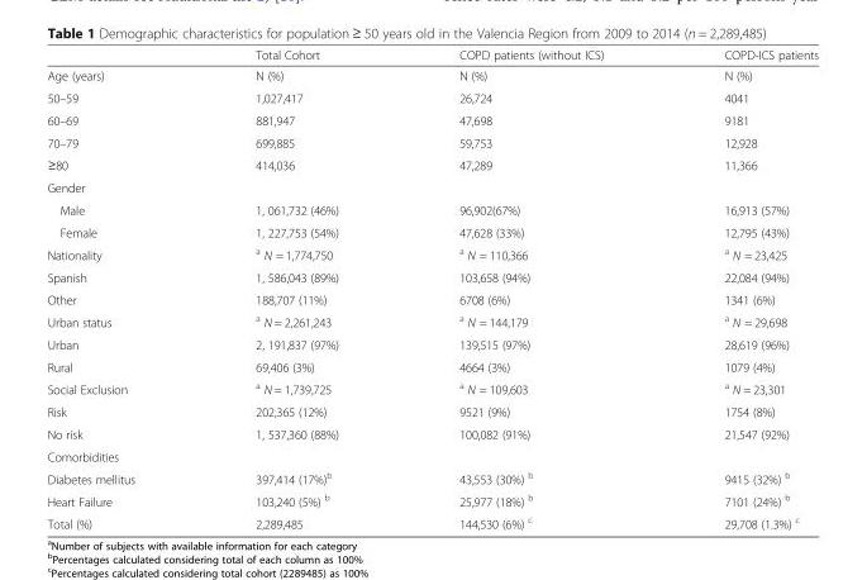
<table><thead><tr><td></td><td>Total Cohort</td><td>COPD patients (without ICS)</td><td>COPD-ICS patients</td></tr></thead><tbody><tr><td>Age (years)</td><td>N (%)</td><td>N (%)</td><td>N (%)</td></tr><tr><td>50–59</td><td>1,027,417</td><td>26,724</td><td>4041</td></tr><tr><td>60–69</td><td>881,947</td><td>47,698</td><td>9181</td></tr><tr><td>70–79</td><td>699,885</td><td>59,753</td><td>12,928</td></tr><tr><td>≥80</td><td>414,036</td><td>47,289</td><td>11,366</td></tr><tr><td colspan="4">Gender</td></tr><tr><td>Male</td><td>1, 061,732 (46%)</td><td>96,902(67%)</td><td>16,913 (57%)</td></tr><tr><td>Female</td><td>1, 227,753 (54%)</td><td>47,628 (33%)</td><td>12,795 (43%)</td></tr><tr><td>Nationality</td><td><sup>a</sup> N = 1,774,750</td><td><sup>a</sup> N = 110,366</td><td><sup>a</sup> N = 23,425</td></tr><tr><td>Spanish</td><td>1, 586,043 (89%)</td><td>103,658 (94%)</td><td>22,084 (94%)</td></tr><tr><td>Other</td><td>188,707 (11%)</td><td>6708 (6%)</td><td>1341 (6%)</td></tr><tr><td>Urban status</td><td><sup>a</sup> N = 2,261,243</td><td><sup>a</sup> N = 144,179</td><td><sup>a</sup> N = 29,698</td></tr><tr><td>Urban</td><td>2, 191,837 (97%)</td><td>139,515 (97%)</td><td>28,619 (96%)</td></tr><tr><td>Rural</td><td>69,406 (3%)</td><td>4664 (3%)</td><td>1079 (4%)</td></tr><tr><td>Social Exclusion</td><td><sup>a</sup> N = 1,739,725</td><td><sup>a</sup> N = 109,603</td><td><sup>a</sup> N = 23,301</td></tr><tr><td>Risk</td><td>202,365 (12%)</td><td>9521 (9%)</td><td>1754 (8%)</td></tr><tr><td>No risk</td><td>1, 537,360 (88%)</td><td>100,082 (91%)</td><td>21,547 (92%)</td></tr><tr><td colspan="4">Comorbidities</td></tr><tr><td>Diabetes mellitus</td><td>397,414 (17%)<sup>b</sup></td><td>43,553 (30%) <sup>b</sup></td><td>9415 (32%) <sup>b</sup></td></tr><tr><td>Heart Failure</td><td>103,240 (5%) <sup>b</sup></td><td>25,977 (18%) <sup>b</sup></td><td>7101 (24%) <sup>b</sup></td></tr><tr><td>Total (%)</td><td>2,289,485</td><td>144,530 (6%) <sup>c</sup></td><td>29,708 (1.3%) <sup>c</sup></td></tr></tbody></table>